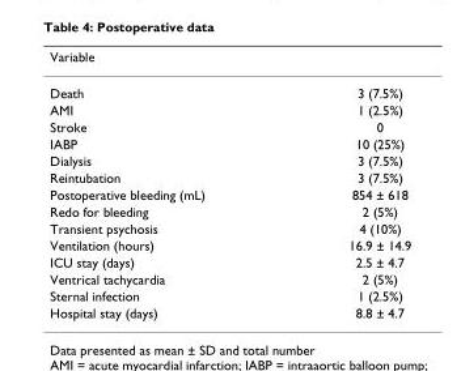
<table><thead><tr><td>Variable</td><td></td></tr></thead><tbody><tr><td>Death</td><td>3 (7.5%)</td></tr><tr><td>AMI</td><td>1 (2.5%)</td></tr><tr><td>Stroke</td><td>0</td></tr><tr><td>IABP</td><td>10 (25%)</td></tr><tr><td>Dialysis</td><td>3 (7.5%)</td></tr><tr><td>Reintubation</td><td>3 (7.5%)</td></tr><tr><td>Postoperative bleeding (mL)</td><td>854 ± 618</td></tr><tr><td>Redo for bleeding</td><td>2 (5%)</td></tr><tr><td>Transient psychosis</td><td>4 (10%)</td></tr><tr><td>Ventilation (hours)</td><td>16.9 ± 14.9</td></tr><tr><td>ICU stay (days)</td><td>2.5 ± 4.7</td></tr><tr><td>Ventrical tachycardia</td><td>2 (5%)</td></tr><tr><td>Sternal infection</td><td>1 (2.5%)</td></tr><tr><td>Hospital stay (days)</td><td>8.8 ± 4.7</td></tr></tbody></table>